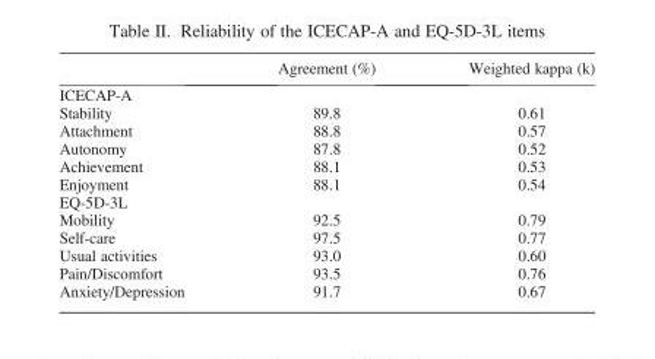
<table><thead><tr><td></td><td>Agreement (%)</td><td>Weighted kappa (k)</td></tr></thead><tbody><tr><td colspan="3">ICECAP-A</td></tr><tr><td>Stability</td><td>89.8</td><td>0.61</td></tr><tr><td>Attachment</td><td>88.8</td><td>0.57</td></tr><tr><td>Autonomy</td><td>87.8</td><td>0.52</td></tr><tr><td>Achievement</td><td>88.1</td><td>0.53</td></tr><tr><td>Enjoyment</td><td>88.1</td><td>0.54</td></tr><tr><td colspan="3">EQ-5D-3L</td></tr><tr><td>Mobility</td><td>92.5</td><td>0.79</td></tr><tr><td>Self-care</td><td>97.5</td><td>0.77</td></tr><tr><td>Usual activities</td><td>93.0</td><td>0.60</td></tr><tr><td>Pain/Discomfort</td><td>93.5</td><td>0.76</td></tr><tr><td>Anxiety/Depression</td><td>91.7</td><td>0.67</td></tr></tbody></table>